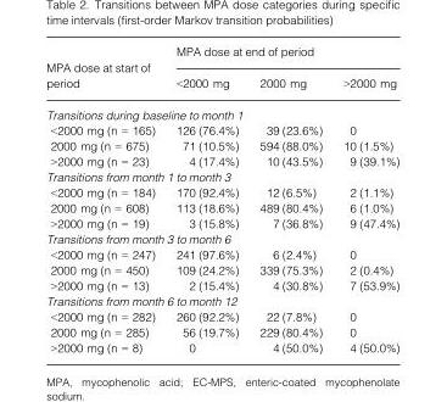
<table><thead><tr><td rowspan="2">MPA dose at start of period</td><td colspan="3">MPA dose at end of period</td></tr><tr><td>&lt;2000 mg</td><td>2000 mg</td><td>&gt;2000 mg</td></tr></thead><tbody><tr><td colspan="4">Transitions during baseline to month 1</td></tr><tr><td>&lt;2000 mg (n = 165)</td><td>126 (76.4%)</td><td>39 (23.6%)</td><td>0</td></tr><tr><td>2000 mg (n = 675)</td><td>71 (10.5%)</td><td>594 (88.0%)</td><td>10 (1.5%)</td></tr><tr><td>&gt;2000 mg (n = 23)</td><td>4 (17.4%)</td><td>10 (43.5%)</td><td>9 (39.1%)</td></tr><tr><td colspan="4">Transitions from month 1 to month 3</td></tr><tr><td>&lt;2000 mg (n = 184)</td><td>170 (92.4%)</td><td>12 (6.5%)</td><td>2 (1.1%)</td></tr><tr><td>2000 mg (n = 608)</td><td>113 (18.6%)</td><td>489 (80.4%)</td><td>6 (1.0%)</td></tr><tr><td>&gt;2000 mg (n = 19)</td><td>3 (15.8%)</td><td>7 (36.8%)</td><td>9 (47.4%)</td></tr><tr><td colspan="4">Transitions from month 3 to month 6</td></tr><tr><td>&lt;2000 mg (n = 247)</td><td>241 (97.6%)</td><td>6 (2.4%)</td><td>0</td></tr><tr><td>2000 mg (n = 450)</td><td>109 (24.2%)</td><td>339 (75.3%)</td><td>2 (0.4%)</td></tr><tr><td>&gt;2000 mg (n = 13)</td><td>2 (15.4%)</td><td>4 (30.8%)</td><td>7 (53.9%)</td></tr><tr><td colspan="4">Transitions from month 6 to month 12</td></tr><tr><td>&lt;2000 mg (n = 282)</td><td>260 (92.2%)</td><td>22 (7.8%)</td><td>0</td></tr><tr><td>2000 mg (n = 285)</td><td>56 (19.7%)</td><td>229 (80.4%)</td><td>0</td></tr><tr><td>&gt;2000 mg (n = 8)</td><td>0</td><td>4 (50.0%)</td><td>4 (50.0%)</td></tr></tbody></table>